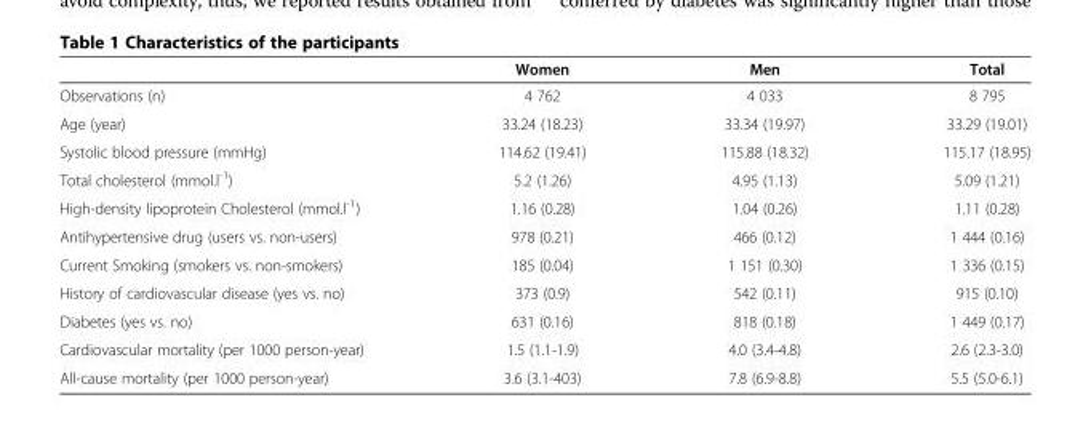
<table><thead><tr><td></td><td>Women</td><td>Men</td><td>Total</td></tr></thead><tbody><tr><td>Observations (n)</td><td>4 762</td><td>4 033</td><td>8 795</td></tr><tr><td>Age (year)</td><td>33.24 (18.23)</td><td>33.34 (19.97)</td><td>33.29 (19.01)</td></tr><tr><td>Systolic blood pressure (mmHg)</td><td>114.62 (19.41)</td><td>115.88 (18.32)</td><td>115.17 (18.95)</td></tr><tr><td>Total cholesterol (mmol.l<sup>-1</sup>)</td><td>5.2 (1.26)</td><td>4.95 (1.13)</td><td>5.09 (1.21)</td></tr><tr><td>High-density lipoprotein Cholesterol (mmol.l<sup>-1</sup>)</td><td>1.16 (0.28)</td><td>1.04 (0.26)</td><td>1.11 (0.28)</td></tr><tr><td>Antihypertensive drug (users vs. non-users)</td><td>978 (0.21)</td><td>466 (0.12)</td><td>1 444 (0.16)</td></tr><tr><td>Current Smoking (smokers vs. non-smokers)</td><td>185 (0.04)</td><td>1 151 (0.30)</td><td>1 336 (0.15)</td></tr><tr><td>History of cardiovascular disease (yes vs. no)</td><td>373 (0.9)</td><td>542 (0.11)</td><td>915 (0.10)</td></tr><tr><td>Diabetes (yes vs. no)</td><td>631 (0.16)</td><td>818 (0.18)</td><td>1 449 (0.17)</td></tr><tr><td>Cardiovascular mortality (per 1000 person-year)</td><td>1.5 (1.1-1.9)</td><td>4.0 (3.4-4.8)</td><td>2.6 (2.3-3.0)</td></tr><tr><td>All-cause mortality (per 1000 person-year)</td><td>3.6 (3.1-403)</td><td>7.8 (6.9-8.8)</td><td>5.5 (5.0-6.1)</td></tr></tbody></table>